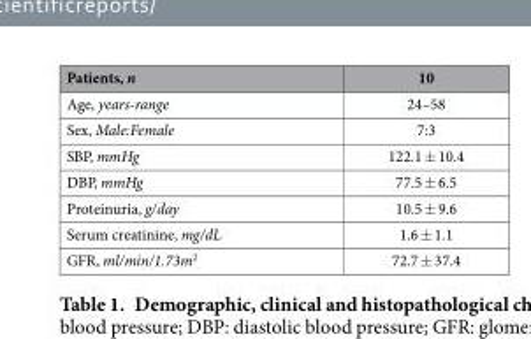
<table><thead><tr><td>Patients, n</td><td>10</td></tr></thead><tbody><tr><td>Age, years-range</td><td>24–58</td></tr><tr><td>Sex, Male:Female</td><td>7:3</td></tr><tr><td>SBP, mmHg</td><td>122.1 ± 10.4</td></tr><tr><td>DBP, mmHg</td><td>77.5 ± 6.5</td></tr><tr><td>Proteinuria, g/day</td><td>10.5 ± 9.6</td></tr><tr><td>Serum creatinine, mg/dL</td><td>1.6 ± 1.1</td></tr><tr><td>GFR, ml/min/1.73m<sup>2</sup></td><td>72.7 ± 37.4</td></tr></tbody></table>